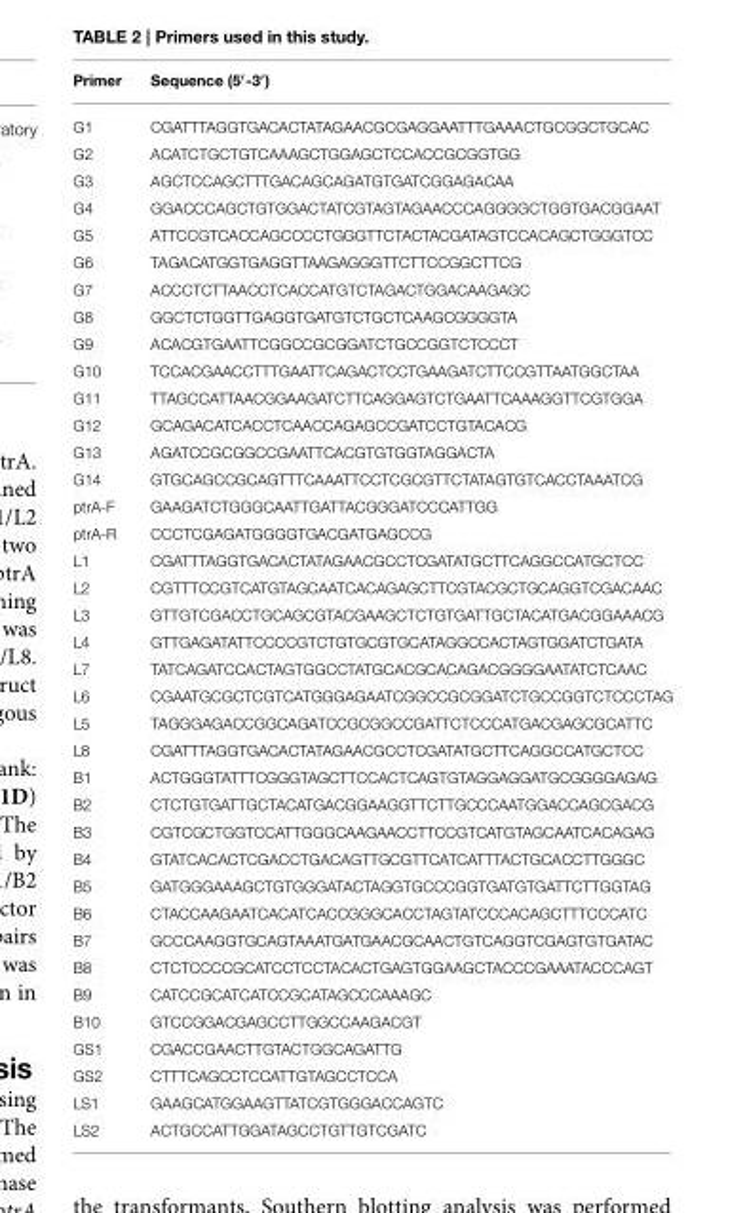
<table><thead><tr><td>Primer</td><td>Sequence (5′-3′)</td></tr></thead><tbody><tr><td>G1</td><td>CGATTTAGGTGACACTATAGAACGCGAGGAATTTGAAACTGCGGCTGCAC</td></tr><tr><td>G2</td><td>ACATCTGCTGTCAAAGCTGGAGCTCCACCGCGGTGG</td></tr><tr><td>G3</td><td>AGCTCCAGCTTTGACAGCAGATGTGATCGGAGACAA</td></tr><tr><td>G4</td><td>GGACCCAGCTGTGGACTATCGTAGTAGAACCCAGGGGCTGGTGACGGAAT</td></tr><tr><td>G5</td><td>ATTCCGTCACCAGCCCCTGGGTTCTACTACGATAGTCCACAGCTGGGTCC</td></tr><tr><td>G6</td><td>TAGACATGGTGAGGTTAAGAGGGTTCTTCCGGCTTCG</td></tr><tr><td>G7</td><td>ACCCTCTTAACCTCACCATGTCTAGACTGGACAAGAGC</td></tr><tr><td>G8</td><td>GGCTCTGGTTGAGGTGATGTCTGCTCAAGCGGGGTA</td></tr><tr><td>G9</td><td>ACACGTGAATTCGGCCGCGGATCTGCCGGTCTCCCT</td></tr><tr><td>G10</td><td>TCCACGAACCTTTGAATTCAGACTCCTGAAGATCTTCCGTTAATGGCTAA</td></tr><tr><td>G11</td><td>TTAGCCATTAACGGAAGATCTTCAGGAGTCTGAATTCAAAGGTTCGTGGA</td></tr><tr><td>G12</td><td>GCAGACATCACCTCAACCAGAGCCGATCCTGTACACG</td></tr><tr><td>G13</td><td>AGATCCGCGGCCGAATTCACGTGTGGTAGGACTA</td></tr><tr><td>G14</td><td>GTGCAGCCGCAGTTTCAAATTCCTCGCGTTCTATAGTGTCACCTAAATCG</td></tr><tr><td>ptrA-F</td><td>GAAGATCTGGGCAATTGATTACGGGATCCCATTGG</td></tr><tr><td>ptrA-R</td><td>CCCTCGAGATGGGGTGACGATGAGCCG</td></tr><tr><td>L1</td><td>CGATTTAGGTGACACTATAGAACGCCTCGATATGCTTCAGGCCATGCTCC</td></tr><tr><td>L2</td><td>CGTTTCCGTCATGTAGCAATCACAGAGCTTCGTACGCTGCAGGTCGACAAC</td></tr><tr><td>L3</td><td>GTTGTCGACCTGCAGCGTACGAAGCTCTGTGATTGCTACATGACGGAAACG</td></tr><tr><td>L4</td><td>GTTGAGATATTCCCCGTCTGTGCGTGCATAGGCCACTAGTGGATCTGATA</td></tr><tr><td>L7</td><td>TATCAGATCCACTAGTGGCCTATGCACGCACAGACGGGGAATATCTCAAC</td></tr><tr><td>L6</td><td>CGAATGCGCTCGTCATGGGAGAATCGGCCGCGGATCTGCCGGTCTCCCTAG</td></tr><tr><td>L5</td><td>TAGGGAGACCGGCAGATCCGCGGCCGATTCTCCCATGACGAGCGCATTC</td></tr><tr><td>L8</td><td>CGATTTAGGTGACACTATAGAACGCCTCGATATGCTTCAGGCCATGCTCC</td></tr><tr><td>B1</td><td>ACTGGGTATTTCGGGTAGCTTCCACTCAGTGTAGGAGGATGCGGGGAGAG</td></tr><tr><td>B2</td><td>CTCTGTGATTGCTACATGACGGAAGGTTCTTGCCCAATGGACCAGCGACG</td></tr><tr><td>B3</td><td>CGTCGCTGGTCCATTGGGCAAGAACCTTCCGTCATGTAGCAATCACAGAG</td></tr><tr><td>B4</td><td>GTATCACACTCGACCTGACAGTTGCGTTCATCATTTACTGCACCTTGGGC</td></tr><tr><td>B5</td><td>GATGGGAAAGCTGTGGGATACTAGGTGCCCGGTGATGTGATTCTTGGTAG</td></tr><tr><td>B6</td><td>CTACCAAGAATCACATCACCGGGCACCTAGTATCCCACAGCTTTCCCATC</td></tr><tr><td>B7</td><td>GCCCAAGGTGCAGTAAATGATGAACGCAACTGTCAGGTCGAGTGTGATAC</td></tr><tr><td>B8</td><td>CTCTCCCCGCATCCTCCTACACTGAGTGGAAGCTACCCGAAATACCCAGT</td></tr><tr><td>B9</td><td>CATCCGCATCATCCGCATAGCCCAAAGC</td></tr><tr><td>B10</td><td>GTCCGGACGAGCCTTGGCCAAGACGT</td></tr><tr><td>GS1</td><td>CGACCGAACTTGTACTGGCAGATTG</td></tr><tr><td>GS2</td><td>CTTTCAGCCTCCATTGTAGCCTCCA</td></tr><tr><td>LS1</td><td>GAAGCATGGAAGTTATCGTGGGACCAGTC</td></tr><tr><td>LS2</td><td>ACTGCCATTGGATAGCCTGTTGTCGATC</td></tr></tbody></table>